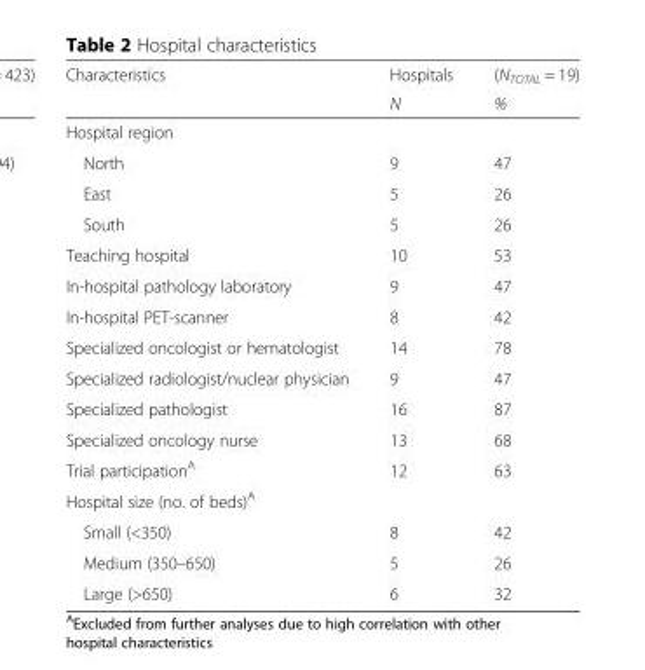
<table><thead><tr><td rowspan="2">Characteristics</td><td rowspan="2">Hospitals N</td><td rowspan="2">(N<sub>TOTAL</sub> = 19) %</td></tr><tr></tr></thead><tbody><tr><td colspan="3">Hospital region</td></tr><tr><td>North</td><td>9</td><td>47</td></tr><tr><td>East</td><td>5</td><td>26</td></tr><tr><td>South</td><td>5</td><td>26</td></tr><tr><td>Teaching hospital</td><td>10</td><td>53</td></tr><tr><td>In-hospital pathology laboratory</td><td>9</td><td>47</td></tr><tr><td>In-hospital PET-scanner</td><td>8</td><td>42</td></tr><tr><td>Specialized oncologist or hematologist</td><td>14</td><td>78</td></tr><tr><td>Specialized radiologist/nuclear physician</td><td>9</td><td>47</td></tr><tr><td>Specialized pathologist</td><td>16</td><td>87</td></tr><tr><td>Specialized oncology nurse</td><td>13</td><td>68</td></tr><tr><td>Trial participation<sup>A</sup></td><td>12</td><td>63</td></tr><tr><td colspan="3">Hospital size (no. of beds)<sup>A</sup></td></tr><tr><td>Small (&lt;350)</td><td>8</td><td>42</td></tr><tr><td>Medium (350–650)</td><td>5</td><td>26</td></tr><tr><td>Large (&gt;650)</td><td>6</td><td>32</td></tr></tbody></table>